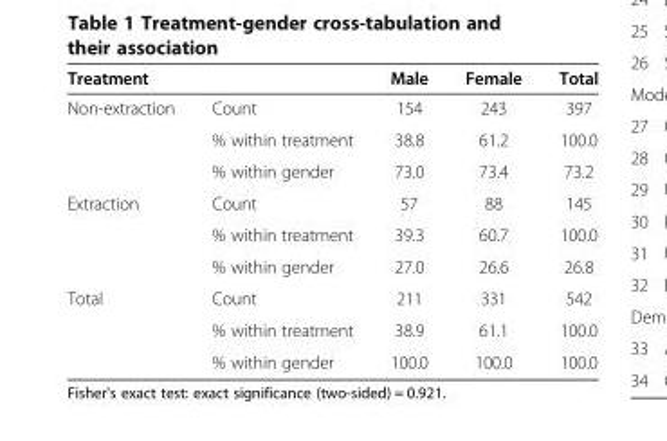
<table><thead><tr><td>Treatment</td><td></td><td>Male</td><td>Female</td><td>Total</td></tr></thead><tbody><tr><td rowspan="3">Non-extraction</td><td>Count</td><td>154</td><td>243</td><td>397</td></tr><tr><td>% within treatment</td><td>38.8</td><td>61.2</td><td>100.0</td></tr><tr><td>% within gender</td><td>73.0</td><td>73.4</td><td>73.2</td></tr><tr><td rowspan="3">Extraction</td><td>Count</td><td>57</td><td>88</td><td>145</td></tr><tr><td>% within treatment</td><td>39.3</td><td>60.7</td><td>100.0</td></tr><tr><td>% within gender</td><td>27.0</td><td>26.6</td><td>26.8</td></tr><tr><td rowspan="3">Total</td><td>Count</td><td>211</td><td>331</td><td>542</td></tr><tr><td>% within treatment</td><td>38.9</td><td>61.1</td><td>100.0</td></tr><tr><td>% within gender</td><td>100.0</td><td>100.0</td><td>100.0</td></tr></tbody></table>